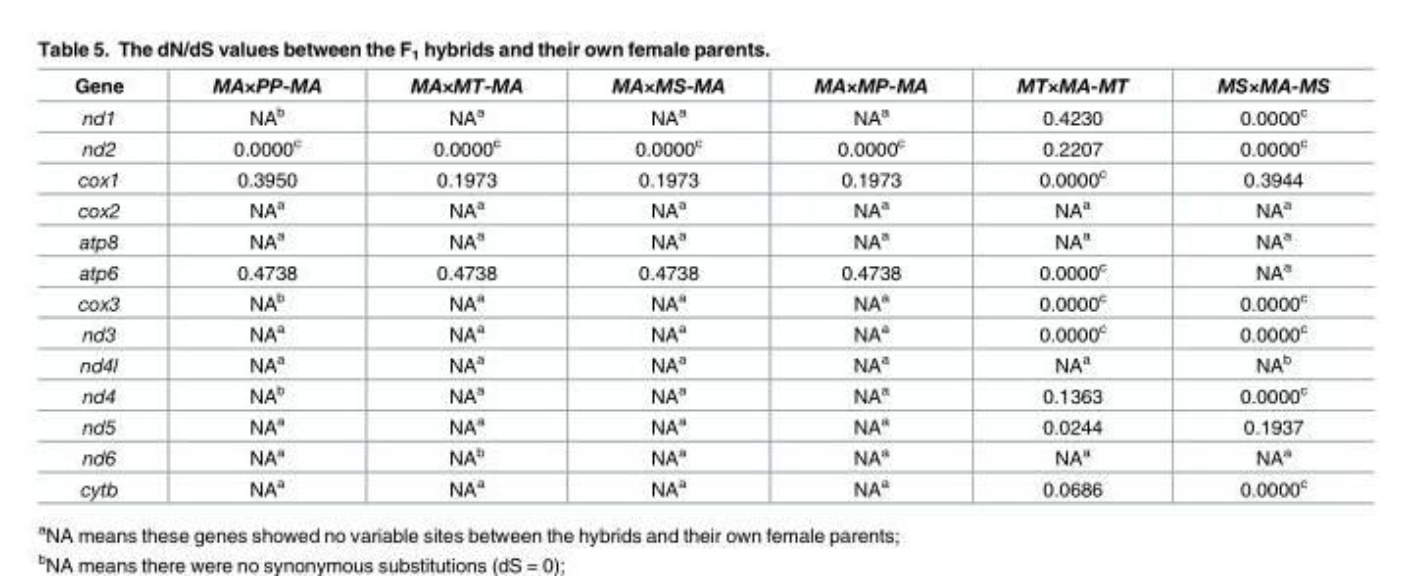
<table><thead><tr><td>Gene</td><td>MA×PP-MA</td><td>MA×MT-MA</td><td>MA×MS-MA</td><td>MA×MP-MA</td><td>MT×MA-MT</td><td>MS×MA-MS</td></tr></thead><tbody><tr><td>nd1</td><td>NA<sup>b</sup></td><td>NA<sup>a</sup></td><td>NA<sup>a</sup></td><td>NA<sup>a</sup></td><td>0.4230</td><td>0.0000<sup>c</sup></td></tr><tr><td>nd2</td><td>0.0000<sup>c</sup></td><td>0.0000<sup>c</sup></td><td>0.0000<sup>c</sup></td><td>0.0000<sup>c</sup></td><td>0.2207</td><td>0.0000<sup>c</sup></td></tr><tr><td>cox1</td><td>0.3950</td><td>0.1973</td><td>0.1973</td><td>0.1973</td><td>0.0000<sup>c</sup></td><td>0.3944</td></tr><tr><td>cox2</td><td>NA<sup>a</sup></td><td>NA<sup>a</sup></td><td>NA<sup>a</sup></td><td>NA<sup>a</sup></td><td>NA<sup>a</sup></td><td>NA<sup>a</sup></td></tr><tr><td>atp8</td><td>NA<sup>a</sup></td><td>NA<sup>a</sup></td><td>NA<sup>a</sup></td><td>NA<sup>a</sup></td><td>NA<sup>a</sup></td><td>NA<sup>a</sup></td></tr><tr><td>atp6</td><td>0.4738</td><td>0.4738</td><td>0.4738</td><td>0.4738</td><td>0.0000<sup>c</sup></td><td>NA<sup>a</sup></td></tr><tr><td>cox3</td><td>NA<sup>b</sup></td><td>NA<sup>a</sup></td><td>NA<sup>a</sup></td><td>NA<sup>a</sup></td><td>0.0000<sup>c</sup></td><td>0.0000<sup>c</sup></td></tr><tr><td>nd3</td><td>NA<sup>a</sup></td><td>NA<sup>a</sup></td><td>NA<sup>a</sup></td><td>NA<sup>a</sup></td><td>0.0000<sup>c</sup></td><td>0.0000<sup>c</sup></td></tr><tr><td>nd4l</td><td>NA<sup>a</sup></td><td>NA<sup>a</sup></td><td>NA<sup>a</sup></td><td>NA<sup>a</sup></td><td>NA<sup>a</sup></td><td>NA<sup>b</sup></td></tr><tr><td>nd4</td><td>NA<sup>b</sup></td><td>NA<sup>a</sup></td><td>NA<sup>a</sup></td><td>NA<sup>a</sup></td><td>0.1363</td><td>0.0000<sup>c</sup></td></tr><tr><td>nd5</td><td>NA<sup>a</sup></td><td>NA<sup>a</sup></td><td>NA<sup>a</sup></td><td>NA<sup>a</sup></td><td>0.0244</td><td>0.1937</td></tr><tr><td>nd6</td><td>NA<sup>a</sup></td><td>NA<sup>b</sup></td><td>NA<sup>a</sup></td><td>NA<sup>a</sup></td><td>NA<sup>a</sup></td><td>NA<sup>a</sup></td></tr><tr><td>cytb</td><td>NA<sup>a</sup></td><td>NA<sup>a</sup></td><td>NA<sup>a</sup></td><td>NA<sup>a</sup></td><td>0.0686</td><td>0.0000<sup>c</sup></td></tr></tbody></table>